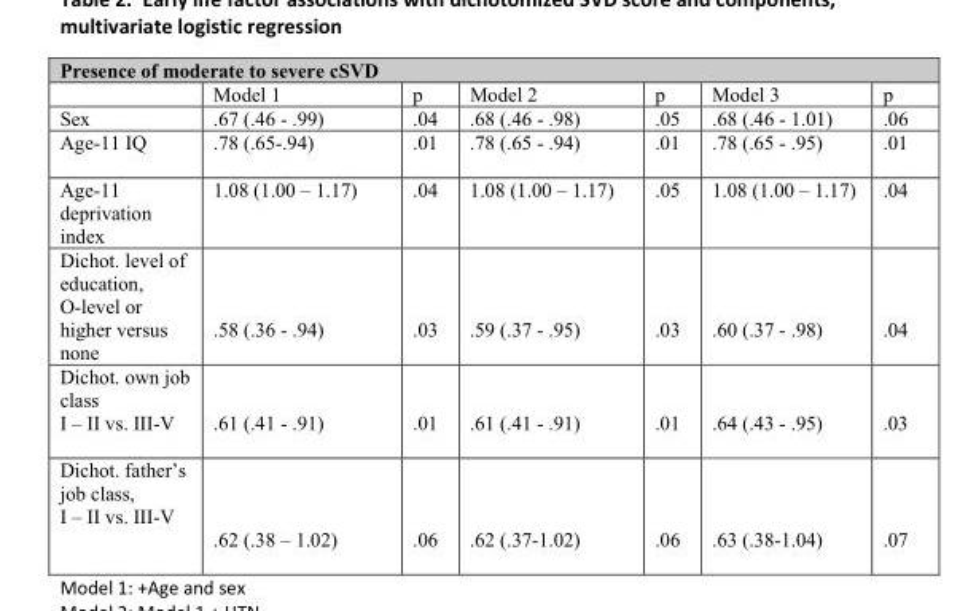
<table><thead><tr><td colspan="7">Presence of moderate to severe cSVD</td></tr><tr><td></td><td>Model 1</td><td>p</td><td>Model 2</td><td>p</td><td>Model 3</td><td>p</td></tr></thead><tbody><tr><td>Sex</td><td>.67 (.46 - .99)</td><td>.04</td><td>.68 (.46 - .98)</td><td>.05</td><td>.68 (.46 - 1.01)</td><td>.06</td></tr><tr><td>Age-11 IQ</td><td>.78 (.65-.94)</td><td>.01</td><td>.78 (.65 - .94)</td><td>.01</td><td>.78 (.65 - .95)</td><td>.01</td></tr><tr><td>Age-11 deprivation index</td><td>1.08 (1.00 – 1.17)</td><td>.04</td><td>1.08 (1.00 – 1.17)</td><td>.05</td><td>1.08 (1.00 – 1.17)</td><td>.04</td></tr><tr><td>Dichot. level of education, O-level or higher versus none</td><td>.58 (.36 - .94)</td><td>.03</td><td>.59 (.37 - .95)</td><td>.03</td><td>.60 (.37 - .98)</td><td>.04</td></tr><tr><td>Dichot. own job class I – II vs. III-V</td><td>.61 (.41 - .91)</td><td>.01</td><td>.61 (.41 - .91)</td><td>.01</td><td>.64 (.43 - .95)</td><td>.03</td></tr><tr><td>Dichot. father’s job class, I – II vs. III-V</td><td>.62 (.38 – 1.02)</td><td>.06</td><td>.62 (.37-1.02)</td><td>.06</td><td>.63 (.38-1.04)</td><td>.07</td></tr></tbody></table>